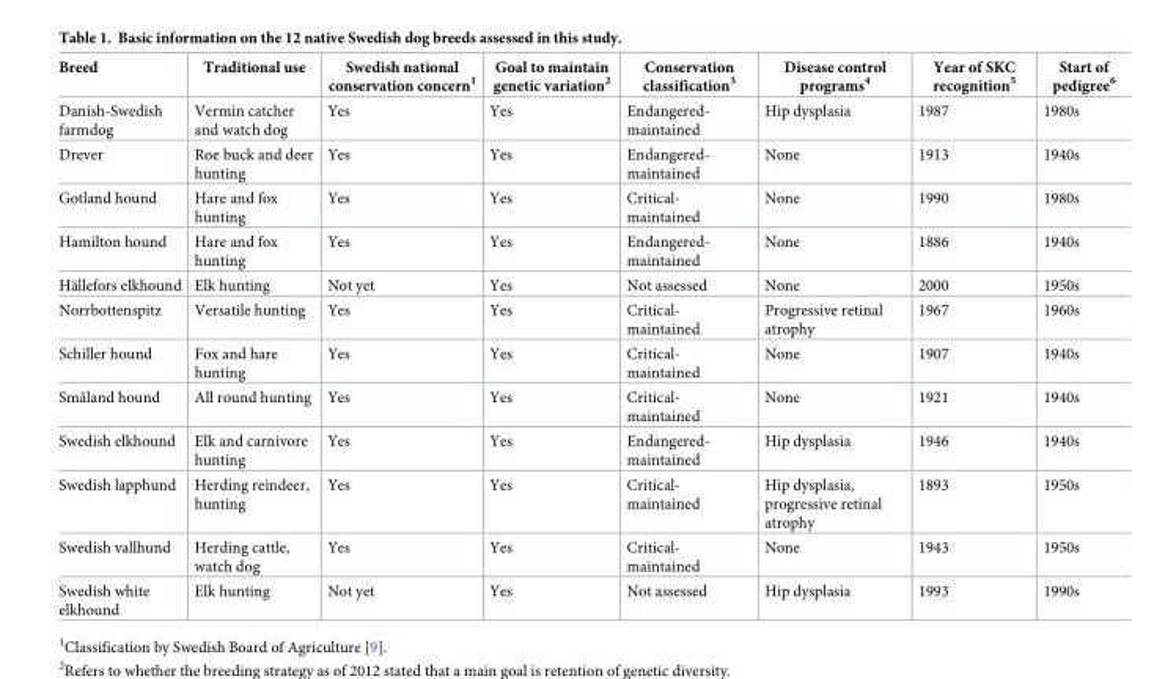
<table><thead><tr><td>Breed</td><td>Traditional use</td><td>Swedish national conservation concern<sup>1</sup></td><td>Goal to maintain genetic variation<sup>2</sup></td><td>Conservation classification<sup>3</sup></td><td>Disease control programs<sup>4</sup></td><td>Year of SKC recognition<sup>5</sup></td><td>Start of pedigree<sup>6</sup></td></tr></thead><tbody><tr><td>Danish-Swedish farmdog</td><td>Vermin catcher and watch dog</td><td>Yes</td><td>Yes</td><td>Endangered- maintained</td><td>Hip dysplasia</td><td>1987</td><td>1980s</td></tr><tr><td>Drever</td><td>Roe buck and deer hunting</td><td>Yes</td><td>Yes</td><td>Endangered- maintained</td><td>None</td><td>1913</td><td>1940s</td></tr><tr><td>Gotland hound</td><td>Hare and fox hunting</td><td>Yes</td><td>Yes</td><td>Critical- maintained</td><td>None</td><td>1990</td><td>1980s</td></tr><tr><td>Hamilton hound</td><td>Hare and fox hunting</td><td>Yes</td><td>Yes</td><td>Endangered- maintained</td><td>None</td><td>1886</td><td>1940s</td></tr><tr><td>Ha¨llefors elkhound</td><td>Elk hunting</td><td>Not yet</td><td>Yes</td><td>Not assessed</td><td>None</td><td>2000</td><td>1950s</td></tr><tr><td>Norrbottenspitz</td><td>Versatile hunting</td><td>Yes</td><td>Yes</td><td>Critical- maintained</td><td>Progressive retinal atrophy</td><td>1967</td><td>1960s</td></tr><tr><td>Schiller hound</td><td>Fox and hare hunting</td><td>Yes</td><td>Yes</td><td>Critical- maintained</td><td>None</td><td>1907</td><td>1940s</td></tr><tr><td>Småland hound</td><td>All round hunting</td><td>Yes</td><td>Yes</td><td>Critical- maintained</td><td>None</td><td>1921</td><td>1940s</td></tr><tr><td>Swedish elkhound</td><td>Elk and carnivore hunting</td><td>Yes</td><td>Yes</td><td>Endangered- maintained</td><td>Hip dysplasia</td><td>1946</td><td>1940s</td></tr><tr><td>Swedish lapphund</td><td>Herding reindeer, hunting</td><td>Yes</td><td>Yes</td><td>Critical- maintained</td><td>Hip dysplasia, progressive retinal atrophy</td><td>1893</td><td>1950s</td></tr><tr><td>Swedish vallhund</td><td>Herding cattle, watch dog</td><td>Yes</td><td>Yes</td><td>Critical- maintained</td><td>None</td><td>1943</td><td>1950s</td></tr><tr><td>Swedish white elkhound</td><td>Elk hunting</td><td>Not yet</td><td>Yes</td><td>Not assessed</td><td>Hip dysplasia</td><td>1993</td><td>1990s</td></tr></tbody></table>